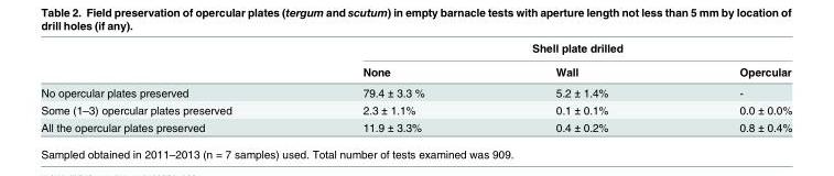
<table><thead><tr><td rowspan="2"></td><td colspan="3">Shell plate drilled</td></tr><tr><td>None</td><td>Wall</td><td>Opercular</td></tr></thead><tbody><tr><td>No opercular plates preserved</td><td>79.4 ± 3.3 %</td><td>5.2 ± 1.4%</td><td>-</td></tr><tr><td>Some (1–3) opercular plates preserved</td><td>2.3 ± 1.1%</td><td>0.1 ± 0.1%</td><td>0.0 ± 0.0%</td></tr><tr><td>All the opercular plates preserved</td><td>11.9 ± 3.3%</td><td>0.4 ± 0.2%</td><td>0.8 ± 0.4%</td></tr></tbody></table>